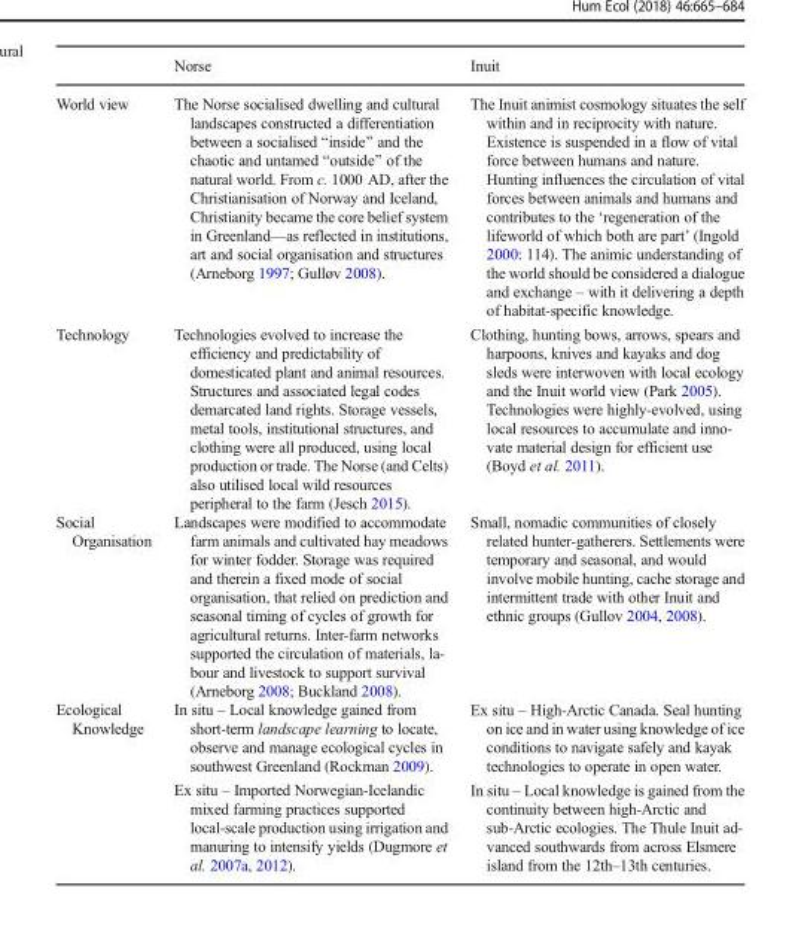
<table><thead><tr><td></td><td>Norse</td><td>Inuit</td></tr></thead><tbody><tr><td>World view</td><td>The Norse socialised dwelling and cultural landscapes constructed a differentiation between a socialised “inside” and the chaotic and untamed “outside” of the natural world. From c. 1000 AD, after the Christianisation of Norway and Iceland, Christianity became the core belief system in Greenland—as reflected in institutions, art and social organisation and structures (Arneborg 1997; Gulløv 2008).</td><td>The Inuit animist cosmology situates the self within and in reciprocity with nature. Existence is suspended in a flow of vital force between humans and nature. Hunting influences the circulation of vital forces between animals and humans and contributes to the ‘regeneration of the lifeworld of which both are part’ (Ingold 2000: 114). The animic understanding of the world should be considered a dialogue and exchange – with it delivering a depth of habitat-specific knowledge.</td></tr><tr><td>Technology</td><td>Technologies evolved to increase the efficiency and predictability of domesticated plant and animal resources. Structures and associated legal codes demarcated land rights. Storage vessels, metal tools, institutional structures, and clothing were all produced, using local production or trade. The Norse (and Celts) also utilised local wild resources peripheral to the farm (Jesch 2015).</td><td>Clothing, hunting bows, arrows, spears and harpoons, knives and kayaks and dog sleds were interwoven with local ecology and the Inuit world view (Park 2005). Technologies were highly-evolved, using local resources to accumulate and inno- vate material design for efficient use (Boyd et al. 2011).</td></tr><tr><td>Social Organisation</td><td>Landscapes were modified to accommodate farm animals and cultivated hay meadows for winter fodder. Storage was required and therein a fixed mode of social organisation, that relied on prediction and seasonal timing of cycles of growth for agricultural returns. Inter-farm networks supported the circulation of materials, la- bour and livestock to support survival (Arneborg 2008; Buckland 2008).</td><td>Small, nomadic communities of closely related hunter-gatherers. Settlements were temporary and seasonal, and would involve mobile hunting, cache storage and intermittent trade with other Inuit and ethnic groups (Gullov 2004, 2008).</td></tr><tr><td>Ecological Knowledge</td><td>In situ – Local knowledge gained from short-term landscape learning to locate, observe and manage ecological cycles in southwest Greenland (Rockman 2009). Ex situ – Imported Norwegian-Icelandic mixed farming practices supported local-scale production using irrigation and manuring to intensify yields (Dugmore et al. 2007a, 2012).</td><td>Ex situ – High-Arctic Canada. Seal hunting on ice and in water using knowledge of ice conditions to navigate safely and kayak technologies to operate in open water. In situ – Local knowledge is gained from the continuity between high-Arctic and sub-Arctic ecologies. The Thule Inuit ad- vanced southwards from across Elsmere island from the 12th–13th centuries.</td></tr></tbody></table>